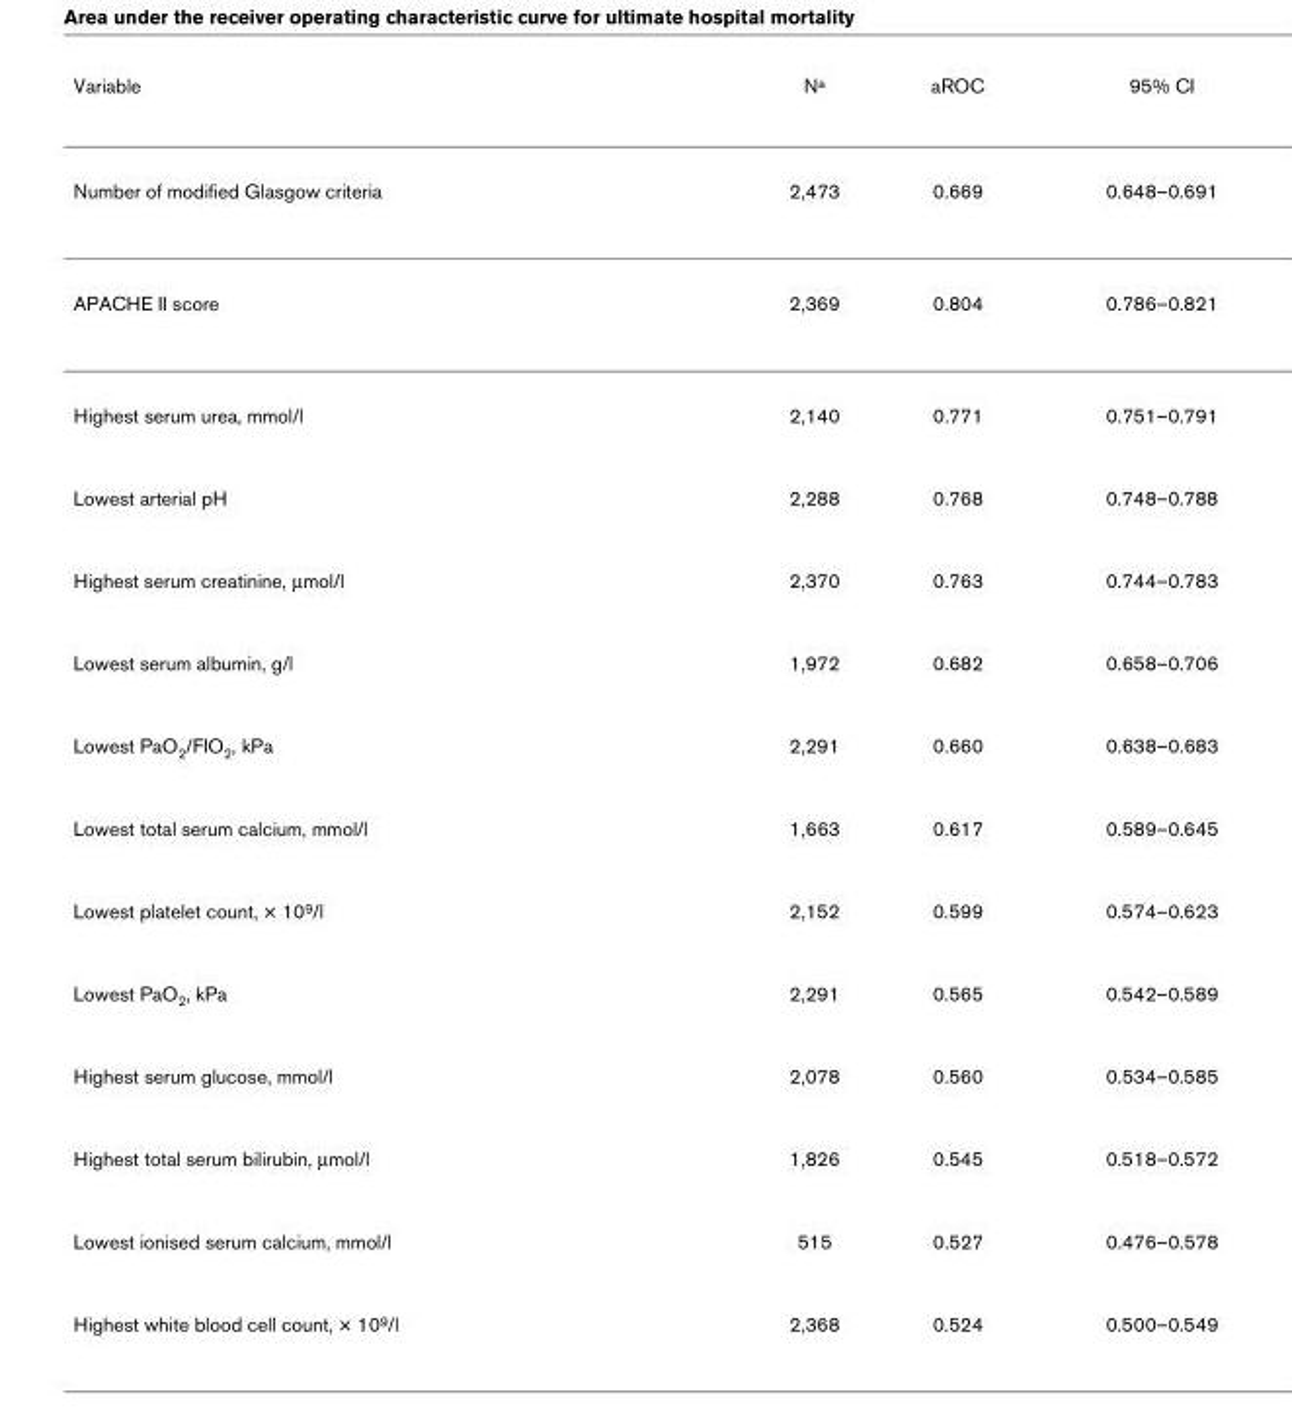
<table><thead><tr><td>Variable</td><td>N<sup>a</sup></td><td>aROC</td><td>95% CI</td></tr></thead><tbody><tr><td>Number of modified Glasgow criteria</td><td>2,473</td><td>0.669</td><td>0.648–0.691</td></tr><tr><td>APACHE II score</td><td>2,369</td><td>0.804</td><td>0.786–0.821</td></tr><tr><td>Highest serum urea, mmol/l</td><td>2,140</td><td>0.771</td><td>0.751–0.791</td></tr><tr><td>Lowest arterial pH</td><td>2,288</td><td>0.768</td><td>0.748–0.788</td></tr><tr><td>Highest serum creatinine, μmol/l</td><td>2,370</td><td>0.763</td><td>0.744–0.783</td></tr><tr><td>Lowest serum albumin, g/l</td><td>1,972</td><td>0.682</td><td>0.658–0.706</td></tr><tr><td>Lowest PaO<sub>2</sub>/FIO<sub>2</sub>, kPa</td><td>2,291</td><td>0.660</td><td>0.638–0.683</td></tr><tr><td>Lowest total serum calcium, mmol/l</td><td>1,663</td><td>0.617</td><td>0.589–0.645</td></tr><tr><td>Lowest platelet count, × 10<sup>9</sup>/l</td><td>2,152</td><td>0.599</td><td>0.574–0.623</td></tr><tr><td>Lowest PaO<sub>2</sub>, kPa</td><td>2,291</td><td>0.565</td><td>0.542–0.589</td></tr><tr><td>Highest serum glucose, mmol/l</td><td>2,078</td><td>0.560</td><td>0.534–0.585</td></tr><tr><td>Highest total serum bilirubin, μmol/l</td><td>1,826</td><td>0.545</td><td>0.518–0.572</td></tr><tr><td>Lowest ionised serum calcium, mmol/l</td><td>515</td><td>0.527</td><td>0.476–0.578</td></tr><tr><td>Highest white blood cell count, × 10<sup>9</sup>/l</td><td>2,368</td><td>0.524</td><td>0.500–0.549</td></tr></tbody></table>